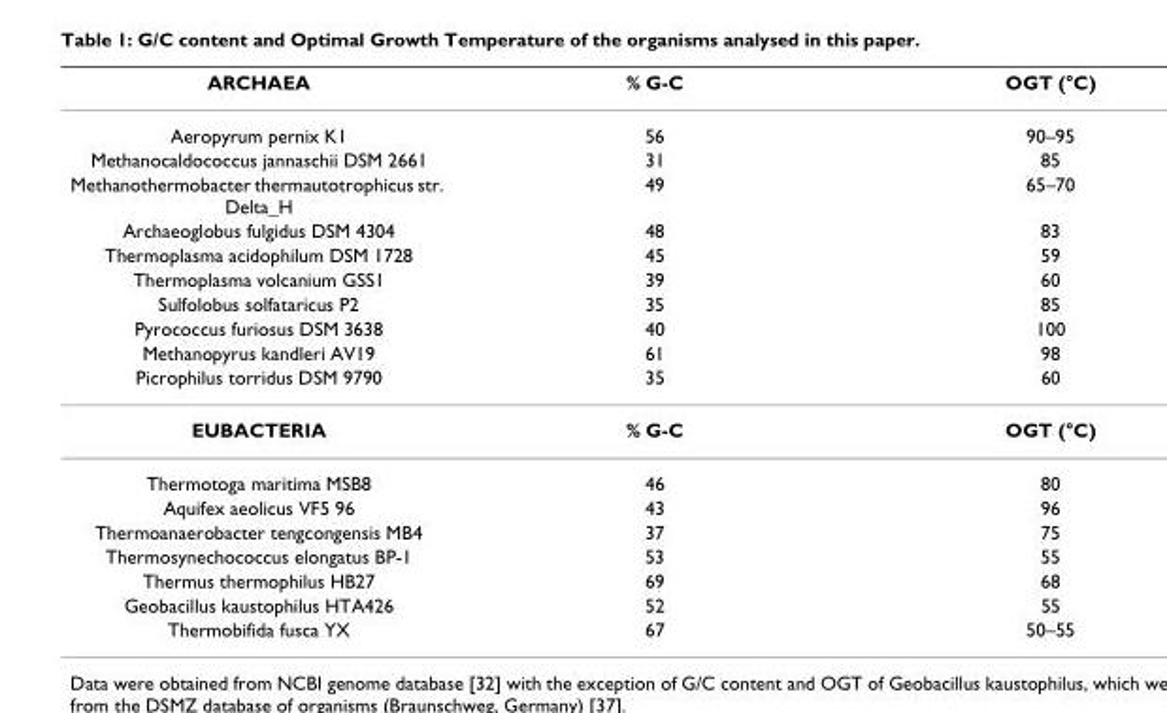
<table><thead><tr><td>ARCHAEA</td><td>% G-C</td><td>OGT (°C)</td></tr></thead><tbody><tr><td>Aeropyrum pernix K1</td><td>56</td><td>90–95</td></tr><tr><td>Methanocaldococcus jannaschii DSM 2661</td><td>31</td><td>85</td></tr><tr><td>Methanothermobacter thermautotrophicus str. Delta_H</td><td>49</td><td>65–70</td></tr><tr><td>Archaeoglobus fulgidus DSM 4304</td><td>48</td><td>83</td></tr><tr><td>Thermoplasma acidophilum DSM 1728</td><td>45</td><td>59</td></tr><tr><td>Thermoplasma volcanium GSS1</td><td>39</td><td>60</td></tr><tr><td>Sulfolobus solfataricus P2</td><td>35</td><td>85</td></tr><tr><td>Pyrococcus furiosus DSM 3638</td><td>40</td><td>100</td></tr><tr><td>Methanopyrus kandleri AV19</td><td>61</td><td>98</td></tr><tr><td>Picrophilus torridus DSM 9790</td><td>35</td><td>60</td></tr><tr><td>EUBACTERIA</td><td>% G-C</td><td>OGT (°C)</td></tr><tr><td>Thermotoga maritima MSB8</td><td>46</td><td>80</td></tr><tr><td>Aquifex aeolicus VF5 96</td><td>43</td><td>96</td></tr><tr><td>Thermoanaerobacter tengcongensis MB4</td><td>37</td><td>75</td></tr><tr><td>Thermosynechococcus elongatus BP-1</td><td>53</td><td>55</td></tr><tr><td>Thermus thermophilus HB27</td><td>69</td><td>68</td></tr><tr><td>Geobacillus kaustophilus HTA426</td><td>52</td><td>55</td></tr><tr><td>Thermobifida fusca YX</td><td>67</td><td>50–55</td></tr></tbody></table>